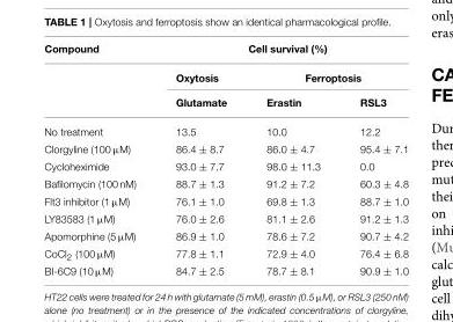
<table><thead><tr><td rowspan="3">Compound</td><td colspan="3">Cell survival (%)</td></tr><tr><td rowspan="2">Oxytosis Glutamate</td><td colspan="2">Ferroptosis</td></tr><tr><td>Erastin</td><td>RSL3</td></tr></thead><tbody><tr><td>No treatment</td><td>13.5</td><td>10.0</td><td>12.2</td></tr><tr><td>Clorgyline (100 µM)</td><td>86.4 ± 8.7</td><td>86.0 ± 4.7</td><td>95.4 ± 7.1</td></tr><tr><td>Cycloheximide</td><td>93.0 ± 7.7</td><td>98.0 ± 11.3</td><td>0.0</td></tr><tr><td>Bafilomycin (100 nM)</td><td>88.7 ± 1.3</td><td>91.2 ± 7.2</td><td>60.3 ± 4.8</td></tr><tr><td>Flt3 inhibitor (1 µM)</td><td>76.1 ± 1.0</td><td>69.8 ± 1.3</td><td>88.7 ± 1.0</td></tr><tr><td>LY83583 (1 µM)</td><td>76.0 ± 2.6</td><td>81.1 ± 2.6</td><td>91.2 ± 1.3</td></tr><tr><td>Apomorphine (5 µM)</td><td>86.9 ± 1.0</td><td>78.6 ± 7.2</td><td>90.7 ± 4.2</td></tr><tr><td>CoCl<sub>2</sub> (100 µM)</td><td>77.8 ± 1.1</td><td>72.9 ± 4.0</td><td>76.4 ± 6.8</td></tr><tr><td>BI-6C9 (10 µM)</td><td>84.7 ± 2.5</td><td>78.7 ± 8.1</td><td>90.9 ± 1.0</td></tr></tbody></table>